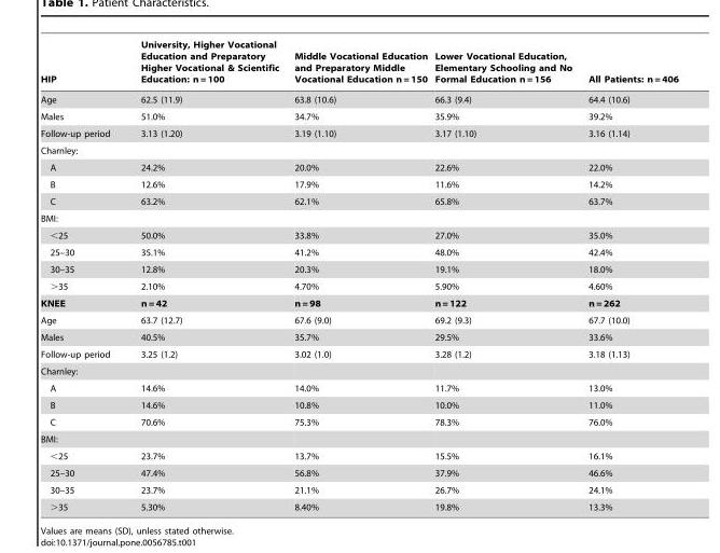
<table><thead><tr><td>HIP</td><td>University, Higher Vocational Education and Preparatory Higher Vocational &amp; Scientific Education: n = 100</td><td>Middle Vocational Education and Preparatory Middle Vocational Education n = 150</td><td>Lower Vocational Education, Elementary Schooling and No Formal Education n = 156</td><td>All Patients: n = 406</td></tr></thead><tbody><tr><td>Age</td><td>62.5 (11.9)</td><td>63.8 (10.6)</td><td>66.3 (9.4)</td><td>64.4 (10.6)</td></tr><tr><td>Males</td><td>51.0%</td><td>34.7%</td><td>35.9%</td><td>39.2%</td></tr><tr><td>Follow-up period</td><td>3.13 (1.20)</td><td>3.19 (1.10)</td><td>3.17 (1.10)</td><td>3.16 (1.14)</td></tr><tr><td colspan="5">Charnley:</td></tr><tr><td>A</td><td>24.2%</td><td>20.0%</td><td>22.6%</td><td>22.0%</td></tr><tr><td>B</td><td>12.6%</td><td>17.9%</td><td>11.6%</td><td>14.2%</td></tr><tr><td>C</td><td>63.2%</td><td>62.1%</td><td>65.8%</td><td>63.7%</td></tr><tr><td colspan="5">BMI:</td></tr><tr><td>&lt;25</td><td>50.0%</td><td>33.8%</td><td>27.0%</td><td>35.0%</td></tr><tr><td>25–30</td><td>35.1%</td><td>41.2%</td><td>48.0%</td><td>42.4%</td></tr><tr><td>30–35</td><td>12.8%</td><td>20.3%</td><td>19.1%</td><td>18.0%</td></tr><tr><td>&gt;35</td><td>2.10%</td><td>4.70%</td><td>5.90%</td><td>4.60%</td></tr><tr><td>KNEE</td><td>n = 42</td><td>n = 98</td><td>n = 122</td><td>n = 262</td></tr><tr><td>Age</td><td>63.7 (12.7)</td><td>67.6 (9.0)</td><td>69.2 (9.3)</td><td>67.7 (10.0)</td></tr><tr><td>Males</td><td>40.5%</td><td>35.7%</td><td>29.5%</td><td>33.6%</td></tr><tr><td>Follow-up period</td><td>3.25 (1.2)</td><td>3.02 (1.0)</td><td>3.28 (1.2)</td><td>3.18 (1.13)</td></tr><tr><td colspan="5">Charnley:</td></tr><tr><td>A</td><td>14.6%</td><td>14.0%</td><td>11.7%</td><td>13.0%</td></tr><tr><td>B</td><td>14.6%</td><td>10.8%</td><td>10.0%</td><td>11.0%</td></tr><tr><td>C</td><td>70.6%</td><td>75.3%</td><td>78.3%</td><td>76.0%</td></tr><tr><td colspan="5">BMI:</td></tr><tr><td>&lt;25</td><td>23.7%</td><td>13.7%</td><td>15.5%</td><td>16.1%</td></tr><tr><td>25–30</td><td>47.4%</td><td>56.8%</td><td>37.9%</td><td>46.6%</td></tr><tr><td>30–35</td><td>23.7%</td><td>21.1%</td><td>26.7%</td><td>24.1%</td></tr><tr><td>&gt;35</td><td>5.30%</td><td>8.40%</td><td>19.8%</td><td>13.3%</td></tr></tbody></table>